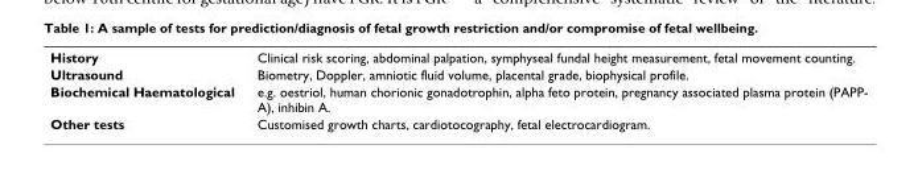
<table><tbody><tr><td>History</td><td>Clinical risk scoring, abdominal palpation, symphyseal fundal height measurement, fetal movement counting.</td></tr><tr><td>Ultrasound</td><td>Biometry, Doppler, amniotic fluid volume, placental grade, biophysical profile.</td></tr><tr><td>Biochemical Haematological</td><td>e.g. oestriol, human chorionic gonadotrophin, alpha feto protein, pregnancy associated plasma protein (PAPP- A), inhibin A.</td></tr><tr><td>Other tests</td><td>Customised growth charts, cardiotocography, fetal electrocardiogram.</td></tr></tbody></table>